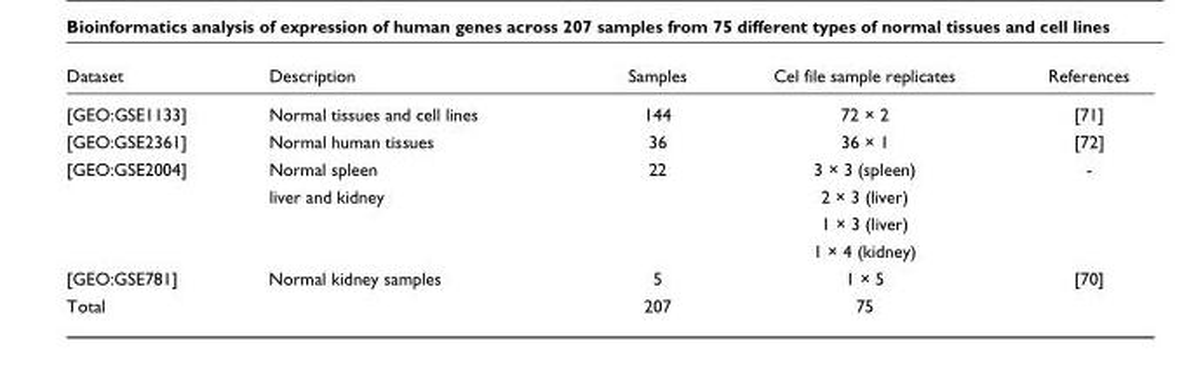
<table><thead><tr><td>Dataset</td><td>Description</td><td>Samples</td><td>Cel file sample replicates</td><td>References</td></tr></thead><tbody><tr><td>[GEO:GSE1133]</td><td>Normal tissues and cell lines</td><td>144</td><td>72 × 2</td><td>[71]</td></tr><tr><td>[GEO:GSE2361]</td><td>Normal human tissues</td><td>36</td><td>36 × 1</td><td>[72]</td></tr><tr><td rowspan="4">[GEO:GSE2004]</td><td>Normal spleen</td><td>22</td><td>3 × 3 (spleen)</td><td>-</td></tr><tr><td>liver and kidney</td><td></td><td>2 × 3 (liver)</td><td></td></tr><tr><td></td><td></td><td>1 × 3 (liver)</td><td></td></tr><tr><td></td><td></td><td>1 × 4 (kidney)</td><td></td></tr><tr><td>[GEO:GSE781]</td><td>Normal kidney samples</td><td>5</td><td>1 × 5</td><td>[70]</td></tr><tr><td>Total</td><td></td><td>207</td><td>75</td><td></td></tr></tbody></table>